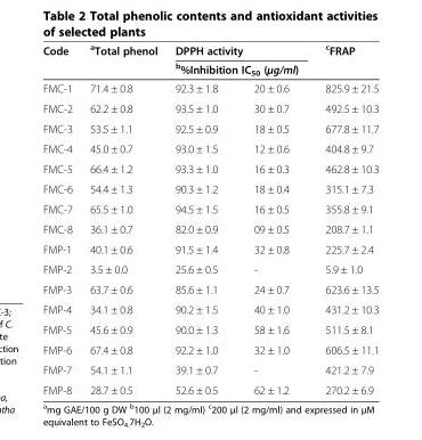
<table><thead><tr><td rowspan="3">Code FMC-1</td><td rowspan="3"><sup>a</sup>Total phenol 71.4 ± 0.8</td><td rowspan="2" colspan="2">DPPH activity <sup>b</sup>%Inhibition IC<sub>50</sub> (μg/ml)</td><td rowspan="3"><sup>c</sup>FRAP 825.9 ± 21.5</td></tr><tr></tr><tr><td>92.3 ± 1.8</td><td>20 ± 0.6</td></tr></thead><tbody><tr><td>FMC-2</td><td>62.2 ± 0.8</td><td>93.5 ± 1.0</td><td>30 ± 0.7</td><td>492.5 ± 10.3</td></tr><tr><td>FMC-3</td><td>53.5 ± 1.1</td><td>92.5 ± 0.9</td><td>18 ± 0.5</td><td>677.8 ± 11.7</td></tr><tr><td>FMC-4</td><td>45.0 ± 0.7</td><td>93.0 ± 1.5</td><td>12 ± 0.6</td><td>404.8 ± 9.7</td></tr><tr><td>FMC-5</td><td>66.4 ± 1.2</td><td>93.3 ± 1.0</td><td>16 ± 0.3</td><td>462.8 ± 10.3</td></tr><tr><td>FMC-6</td><td>54.4 ± 1.3</td><td>90.3 ± 1.2</td><td>18 ± 0.4</td><td>315.1 ± 7.3</td></tr><tr><td>FMC-7</td><td>65.5 ± 1.0</td><td>94.5 ± 1.5</td><td>16 ± 0.5</td><td>355.8 ± 9.1</td></tr><tr><td>FMC-8</td><td>36.1 ± 0.7</td><td>82.0 ± 0.9</td><td>09 ± 0.5</td><td>208.7 ± 1.1</td></tr><tr><td>FMP-1</td><td>40.1 ± 0.6</td><td>91.5 ± 1.4</td><td>32 ± 0.8</td><td>225.7 ± 2.4</td></tr><tr><td>FMP-2</td><td>3.5 ± 0.0</td><td>25.6 ± 0.5</td><td>-</td><td>5.9 ± 1.0</td></tr><tr><td>FMP-3</td><td>63.7 ± 0.6</td><td>85.6 ± 1.1</td><td>24 ± 0.7</td><td>623.6 ± 13.5</td></tr><tr><td>FMP-4</td><td>34.1 ± 0.8</td><td>90.2 ± 1.5</td><td>40 ± 1.0</td><td>431.2 ± 10.3</td></tr><tr><td>FMP-5</td><td>45.6 ± 0.9</td><td>90.0 ± 1.3</td><td>58 ± 1.6</td><td>511.5 ± 8.1</td></tr><tr><td>FMP-6</td><td>67.4 ± 0.8</td><td>92.2 ± 1.0</td><td>32 ± 1.0</td><td>606.5 ± 11.1</td></tr><tr><td>FMP-7</td><td>54.1 ± 1.1</td><td>39.1 ± 0.7</td><td>-</td><td>421.2 ± 7.9</td></tr><tr><td>FMP-8</td><td>28.7 ± 0.5</td><td>52.6 ± 0.5</td><td>62 ± 1.2</td><td>270.2 ± 6.9</td></tr></tbody></table>